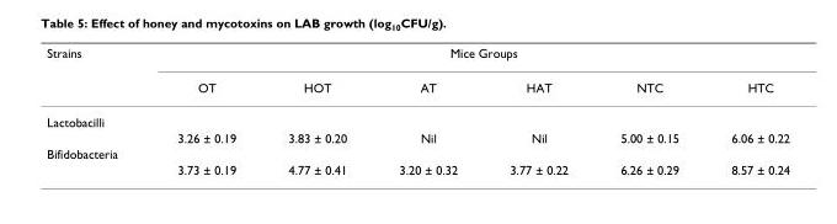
<table><thead><tr><td rowspan="2">Strains</td><td colspan="6">Mice Groups</td></tr><tr><td>OT</td><td>HOT</td><td>AT</td><td>HAT</td><td>NTC</td><td>HTC</td></tr></thead><tbody><tr><td colspan="7">Lactobacilli</td></tr><tr><td></td><td>3.26 ± 0.19</td><td>3.83 ± 0.20</td><td>Nil</td><td>Nil</td><td>5.00 ± 0.15</td><td>6.06 ± 0.22</td></tr><tr><td colspan="7">Bifidobacteria</td></tr><tr><td></td><td>3.73 ± 0.19</td><td>4.77 ± 0.41</td><td>3.20 ± 0.32</td><td>3.77 ± 0.22</td><td>6.26 ± 0.29</td><td>8.57 ± 0.24</td></tr></tbody></table>